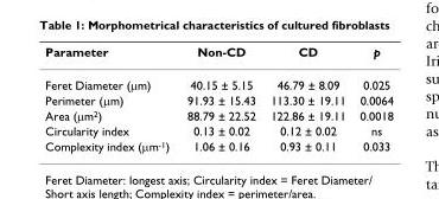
<table><thead><tr><td>Parameter</td><td>Non-CD</td><td>CD</td><td>p</td></tr></thead><tbody><tr><td>Feret Diameter (μm)</td><td>40.15 ± 5.15</td><td>46.79 ± 8.09</td><td>0.025</td></tr><tr><td>Perimeter (μm)</td><td>91.93 ± 15.43</td><td>113.30 ± 19.11</td><td>0.0064</td></tr><tr><td>Area (μm<sup>2</sup>)</td><td>88.79 ± 22.52</td><td>122.86 ± 19.11</td><td>0.0018</td></tr><tr><td>Circularity index</td><td>0.13 ± 0.02</td><td>0.12 ± 0.02</td><td>ns</td></tr><tr><td>Complexity index (μm<sup>-1</sup>)</td><td>1.06 ± 0.16</td><td>0.93 ± 0.11</td><td>0.033</td></tr></tbody></table>